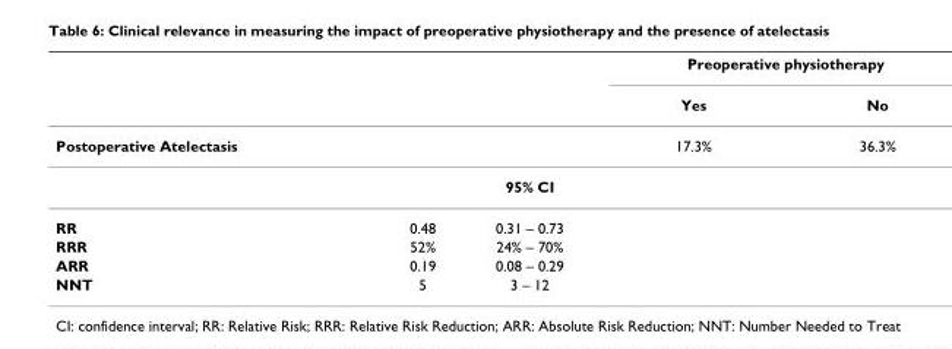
<table><thead><tr><td rowspan="2"></td><td rowspan="2"></td><td rowspan="2"></td><td colspan="2">Preoperative physiotherapy</td></tr><tr><td>Yes</td><td>No</td></tr></thead><tbody><tr><td rowspan="2">Postoperative Atelectasis</td><td></td><td></td><td>17.3%</td><td>36.3%</td></tr><tr><td></td><td>95% CI</td><td></td><td></td></tr><tr><td>RR</td><td>0.48</td><td>0.31 – 0.73</td><td></td><td></td></tr><tr><td>RRR</td><td>52%</td><td>24% – 70%</td><td></td><td></td></tr><tr><td>ARR</td><td>0.19</td><td>0.08 – 0.29</td><td></td><td></td></tr><tr><td>NNT</td><td>5</td><td>3 – 12</td><td></td><td></td></tr></tbody></table>